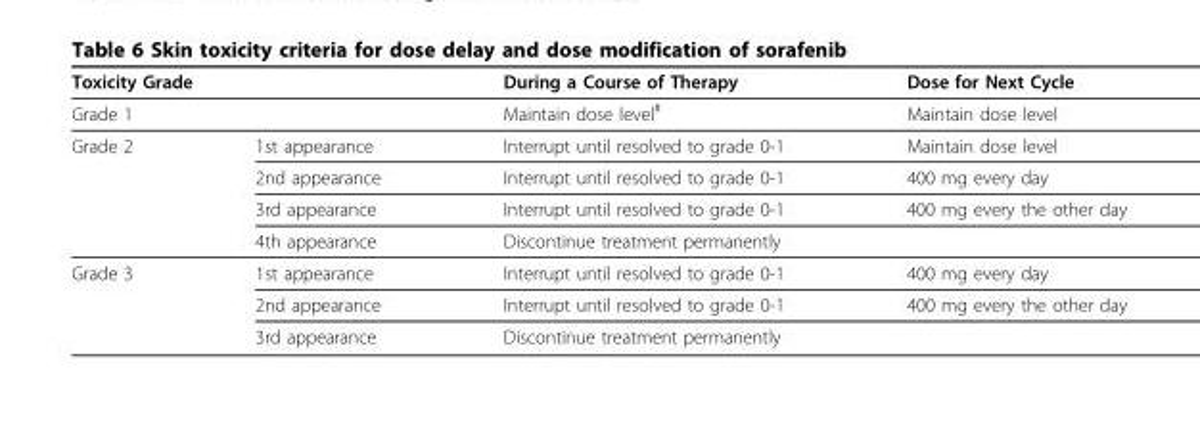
<table><thead><tr><td colspan="2">Toxicity Grade</td><td rowspan="2">During a Course of Therapy Maintain dose level#</td><td rowspan="2">Dose for Next Cycle Maintain dose level</td></tr><tr><td>Grade 1</td><td></td></tr></thead><tbody><tr><td rowspan="4">Grade 2</td><td>1st appearance</td><td>Interrupt until resolved to grade 0-1</td><td>Maintain dose level</td></tr><tr><td>2nd appearance</td><td>Interrupt until resolved to grade 0-1</td><td>400 mg every day</td></tr><tr><td>3rd appearance</td><td>Interrupt until resolved to grade 0-1</td><td>400 mg every the other day</td></tr><tr><td>4th appearance</td><td>Discontinue treatment permanently</td><td></td></tr><tr><td rowspan="3">Grade 3</td><td>1st appearance</td><td>Interrupt until resolved to grade 0-1</td><td>400 mg every day</td></tr><tr><td>2nd appearance</td><td>Interrupt until resolved to grade 0-1</td><td>400 mg every the other day</td></tr><tr><td>3rd appearance</td><td>Discontinue treatment permanently</td><td></td></tr></tbody></table>